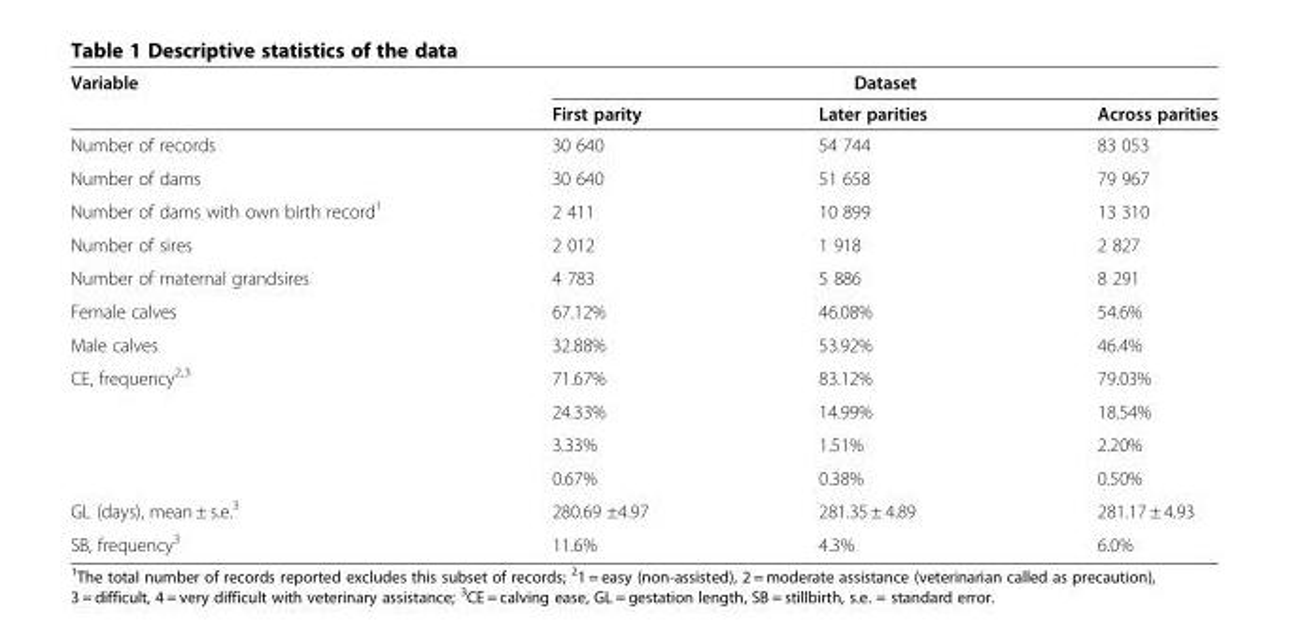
<table><thead><tr><td rowspan="2">Variable</td><td colspan="3">Dataset</td></tr><tr><td>First parity</td><td>Later parities</td><td>Across parities</td></tr></thead><tbody><tr><td>Number of records</td><td>30 640</td><td>54 744</td><td>83 053</td></tr><tr><td>Number of dams</td><td>30 640</td><td>51 658</td><td>79 967</td></tr><tr><td>Number of dams with own birth record<sup>1</sup></td><td>2 411</td><td>10 899</td><td>13 310</td></tr><tr><td>Number of sires</td><td>2 012</td><td>1 918</td><td>2 827</td></tr><tr><td>Number of maternal grandsires</td><td>4 783</td><td>5 886</td><td>8 291</td></tr><tr><td>Female calves</td><td>67.12%</td><td>46.08%</td><td>54.6%</td></tr><tr><td>Male calves</td><td>32.88%</td><td>53.92%</td><td>46.4%</td></tr><tr><td rowspan="4">CE, frequency<sup>2,3</sup></td><td>71.67%</td><td>83.12%</td><td>79.03%</td></tr><tr><td>24.33%</td><td>14.99%</td><td>18.54%</td></tr><tr><td>3.33%</td><td>1.51%</td><td>2.20%</td></tr><tr><td>0.67%</td><td>0.38%</td><td>0.50%</td></tr><tr><td>GL (days), mean ± s.e.<sup>3</sup></td><td>280.69 ±4.97</td><td>281.35 ± 4.89</td><td>281.17 ± 4.93</td></tr><tr><td>SB, frequency<sup>3</sup></td><td>11.6%</td><td>4.3%</td><td>6.0%</td></tr></tbody></table>